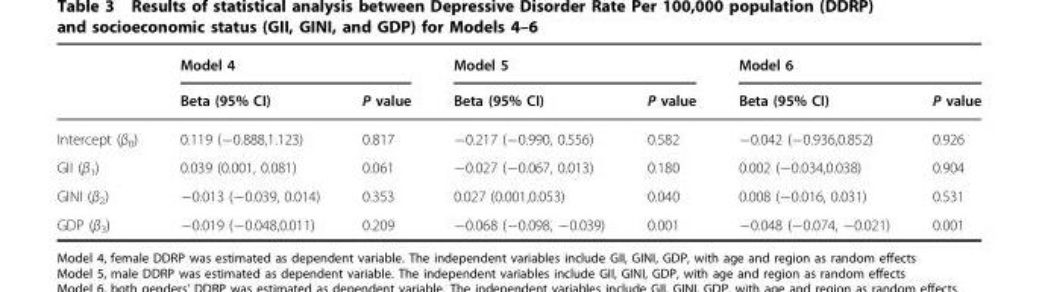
<table><thead><tr><td rowspan="2"></td><td colspan="2">Model 4</td><td colspan="2">Model 5</td><td colspan="2">Model 6</td></tr><tr><td>Beta (95% CI)</td><td>P value</td><td>Beta (95% CI)</td><td>P value</td><td>Beta (95% CI)</td><td>P value</td></tr></thead><tbody><tr><td>Intercept (β<sub>0</sub>)</td><td>0.119 (−0.888,1.123)</td><td>0.817</td><td>−0.217 (−0.990, 0.556)</td><td>0.582</td><td>−0.042 (−0.936,0.852)</td><td>0.926</td></tr><tr><td>GII (β<sub>1</sub>)</td><td>0.039 (0.001, 0.081)</td><td>0.061</td><td>−0.027 (−0.067, 0.013)</td><td>0.180</td><td>0.002 (−0.034,0.038)</td><td>0.904</td></tr><tr><td>GINI (β<sub>2</sub>)</td><td>−0.013 (−0.039, 0.014)</td><td>0.353</td><td>0.027 (0.001,0.053)</td><td>0.040</td><td>0.008 (−0.016, 0.031)</td><td>0.531</td></tr><tr><td>GDP (β<sub>3</sub>)</td><td>−0.019 (−0.048,0.011)</td><td>0.209</td><td>−0.068 (−0.098, −0.039)</td><td>0.001</td><td>−0.048 (−0.074, −0.021)</td><td>0.001</td></tr></tbody></table>